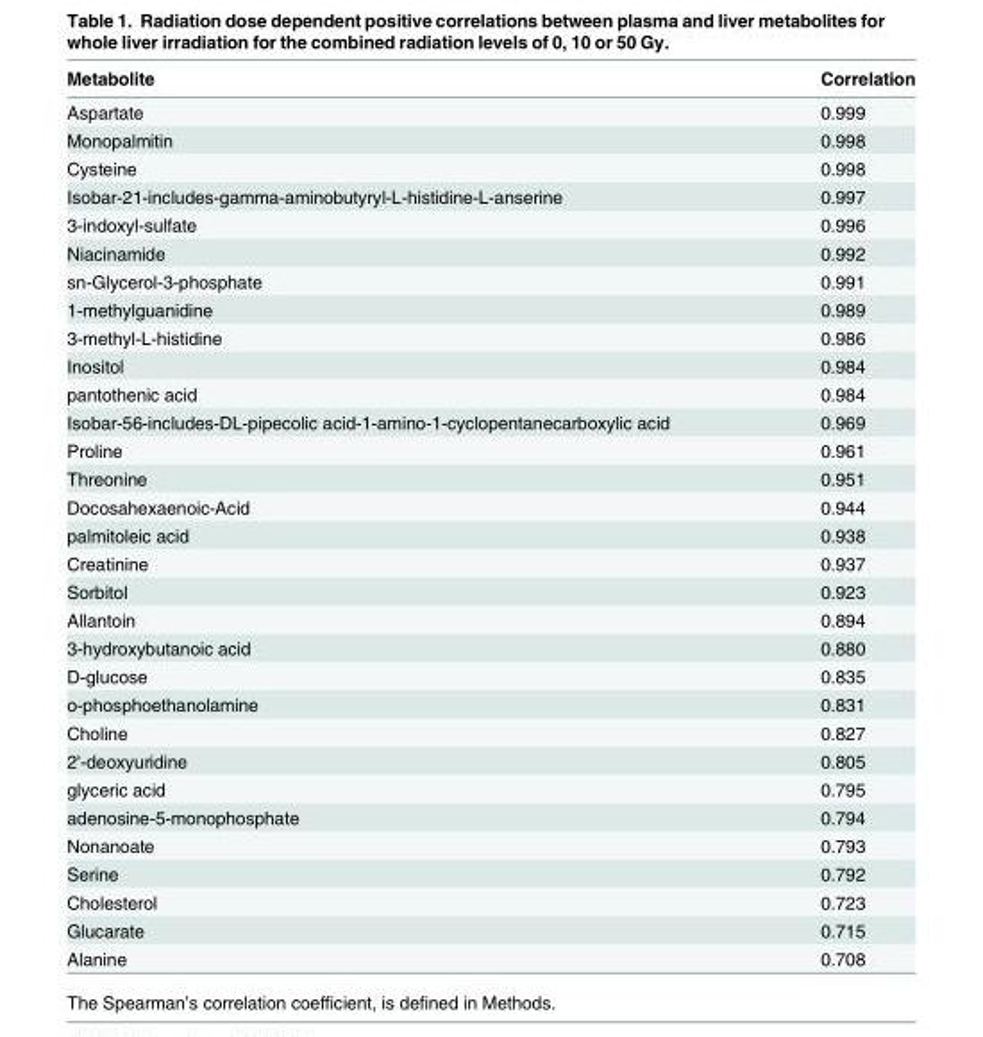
<table><thead><tr><td>Metabolite</td><td>Correlation</td></tr></thead><tbody><tr><td>Aspartate</td><td>0.999</td></tr><tr><td>Monopalmitin</td><td>0.998</td></tr><tr><td>Cysteine</td><td>0.998</td></tr><tr><td>Isobar-21-includes-gamma-aminobutyryl-L-histidine-L-anserine</td><td>0.997</td></tr><tr><td>3-indoxyl-sulfate</td><td>0.996</td></tr><tr><td>Niacinamide</td><td>0.992</td></tr><tr><td>sn-Glycerol-3-phosphate</td><td>0.991</td></tr><tr><td>1-methylguanidine</td><td>0.989</td></tr><tr><td>3-methyl-L-histidine</td><td>0.986</td></tr><tr><td>Inositol</td><td>0.984</td></tr><tr><td>pantothenic acid</td><td>0.984</td></tr><tr><td>Isobar-56-includes-DL-pipecolic acid-1-amino-1-cyclopentanecarboxylic acid</td><td>0.969</td></tr><tr><td>Proline</td><td>0.961</td></tr><tr><td>Threonine</td><td>0.951</td></tr><tr><td>Docosahexaenoic-Acid</td><td>0.944</td></tr><tr><td>palmitoleic acid</td><td>0.938</td></tr><tr><td>Creatinine</td><td>0.937</td></tr><tr><td>Sorbitol</td><td>0.923</td></tr><tr><td>Allantoin</td><td>0.894</td></tr><tr><td>3-hydroxybutanoic acid</td><td>0.880</td></tr><tr><td>D-glucose</td><td>0.835</td></tr><tr><td>o-phosphoethanolamine</td><td>0.831</td></tr><tr><td>Choline</td><td>0.827</td></tr><tr><td>2&#x27;-deoxyuridine</td><td>0.805</td></tr><tr><td>glyceric acid</td><td>0.795</td></tr><tr><td>adenosine-5-monophosphate</td><td>0.794</td></tr><tr><td>Nonanoate</td><td>0.793</td></tr><tr><td>Serine</td><td>0.792</td></tr><tr><td>Cholesterol</td><td>0.723</td></tr><tr><td>Glucarate</td><td>0.715</td></tr><tr><td>Alanine</td><td>0.708</td></tr></tbody></table>